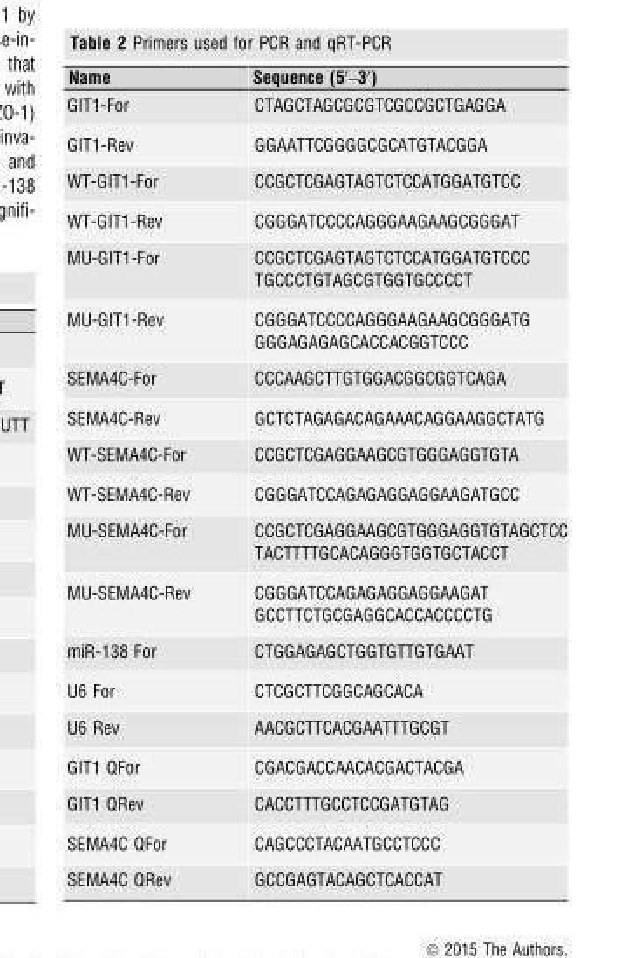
<table><thead><tr><td>Name</td><td>Sequence (5′–3′)</td></tr></thead><tbody><tr><td>GIT1-For</td><td>CTAGCTAGCGCGTCGCCGCTGAGGA</td></tr><tr><td>GIT1-Rev</td><td>GGAATTCGGGGCGCATGTACGGA</td></tr><tr><td>WT-GIT1-For</td><td>CCGCTCGAGTAGTCTCCATGGATGTCC</td></tr><tr><td>WT-GIT1-Rev</td><td>CGGGATCCCCAGGGAAGAAGCGGGAT</td></tr><tr><td>MU-GIT1-For</td><td>CCGCTCGAGTAGTCTCCATGGATGTCCC TGCCCTGTAGCGTGGTGCCCCT</td></tr><tr><td>MU-GIT1-Rev</td><td>CGGGATCCCCAGGGAAGAAGCGGGATG GGGAGAGAGCACCACGGTCCC</td></tr><tr><td>SEMA4C-For</td><td>CCCAAGCTTGTGGACGGCGGTCAGA</td></tr><tr><td>SEMA4C-Rev</td><td>GCTCTAGAGACAGAAACAGGAAGGCTATG</td></tr><tr><td>WT-SEMA4C-For</td><td>CCGCTCGAGGAAGCGTGGGAGGTGTA</td></tr><tr><td>WT-SEMA4C-Rev</td><td>CGGGATCCAGAGAGGAGGAAGATGCC</td></tr><tr><td>MU-SEMA4C-For</td><td>CCGCTCGAGGAAGCGTGGGAGGTGTAGCTCC TACTTTTGCACAGGGTGGTGCTACCT</td></tr><tr><td>MU-SEMA4C-Rev</td><td>CGGGATCCAGAGAGGAGGAAGAT GCCTTCTGCGAGGCACCACCCCTG</td></tr><tr><td>miR-138 For</td><td>CTGGAGAGCTGGTGTTGTGAAT</td></tr><tr><td>U6 For</td><td>CTCGCTTCGGCAGCACA</td></tr><tr><td>U6 Rev</td><td>AACGCTTCACGAATTTGCGT</td></tr><tr><td>GIT1 QFor</td><td>CGACGACCAACACGACTACGA</td></tr><tr><td>GIT1 QRev</td><td>CACCTTTGCCTCCGATGTAG</td></tr><tr><td>SEMA4C QFor</td><td>CAGCCCTACAATGCCTCCC</td></tr><tr><td>SEMA4C QRev</td><td>GCCGAGTACAGCTCACCAT</td></tr></tbody></table>